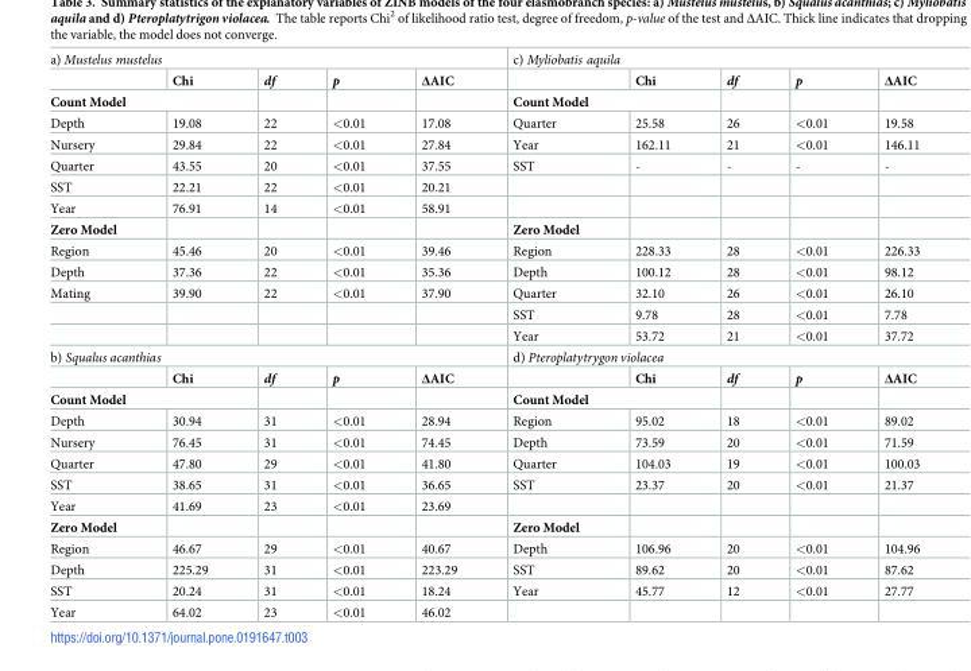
<table><tbody><tr><td colspan="5">a) Mustelus mustelus</td><td colspan="5">c) Myliobatis aquila</td></tr><tr><td></td><td>Chi</td><td>df</td><td>p</td><td>ΔAIC</td><td></td><td>Chi</td><td>df</td><td>p</td><td>ΔAIC</td></tr><tr><td colspan="2">Count Model</td><td></td><td></td><td></td><td colspan="2">Count Model</td><td></td><td></td><td></td></tr><tr><td>Depth</td><td>19.08</td><td>22</td><td>&lt;0.01</td><td>17.08</td><td>Quarter</td><td>25.58</td><td>26</td><td>&lt;0.01</td><td>19.58</td></tr><tr><td>Nursery</td><td>29.84</td><td>22</td><td>&lt;0.01</td><td>27.84</td><td>Year</td><td>162.11</td><td>21</td><td>&lt;0.01</td><td>146.11</td></tr><tr><td>Quarter</td><td>43.55</td><td>20</td><td>&lt;0.01</td><td>37.55</td><td>SST</td><td>-</td><td>-</td><td>-</td><td>-</td></tr><tr><td>SST</td><td>22.21</td><td>22</td><td>&lt;0.01</td><td>20.21</td><td></td><td></td><td></td><td></td><td></td></tr><tr><td>Year</td><td>76.91</td><td>14</td><td>&lt;0.01</td><td>58.91</td><td></td><td></td><td></td><td></td><td></td></tr><tr><td>Zero Model</td><td></td><td></td><td></td><td></td><td>Zero Model</td><td></td><td></td><td></td><td></td></tr><tr><td>Region</td><td>45.46</td><td>20</td><td>&lt;0.01</td><td>39.46</td><td>Region</td><td>228.33</td><td>28</td><td>&lt;0.01</td><td>226.33</td></tr><tr><td>Depth</td><td>37.36</td><td>22</td><td>&lt;0.01</td><td>35.36</td><td>Depth</td><td>100.12</td><td>28</td><td>&lt;0.01</td><td>98.12</td></tr><tr><td rowspan="3">Mating</td><td>39.90</td><td>22</td><td>&lt;0.01</td><td>37.90</td><td>Quarter</td><td>32.10</td><td>26</td><td>&lt;0.01</td><td>26.10</td></tr><tr><td></td><td></td><td></td><td></td><td>SST</td><td>9.78</td><td>28</td><td>&lt;0.01</td><td>7.78</td></tr><tr><td></td><td></td><td></td><td></td><td>Year</td><td>53.72</td><td>21</td><td>&lt;0.01</td><td>37.72</td></tr><tr><td colspan="5">b) Squalus acanthias</td><td colspan="5">d) Pteroplatytrygon violacea</td></tr><tr><td></td><td>Chi</td><td>df</td><td>p</td><td>ΔAIC</td><td></td><td>Chi</td><td>df</td><td>p</td><td>ΔAIC</td></tr><tr><td colspan="2">Count Model</td><td></td><td></td><td></td><td colspan="2">Count Model</td><td></td><td></td><td></td></tr><tr><td>Depth</td><td>30.94</td><td>31</td><td>&lt;0.01</td><td>28.94</td><td>Region</td><td>95.02</td><td>18</td><td>&lt;0.01</td><td>89.02</td></tr><tr><td>Nursery</td><td>76.45</td><td>31</td><td>&lt;0.01</td><td>74.45</td><td>Depth</td><td>73.59</td><td>20</td><td>&lt;0.01</td><td>71.59</td></tr><tr><td>Quarter</td><td>47.80</td><td>29</td><td>&lt;0.01</td><td>41.80</td><td>Quarter</td><td>104.03</td><td>19</td><td>&lt;0.01</td><td>100.03</td></tr><tr><td>SST</td><td>38.65</td><td>31</td><td>&lt;0.01</td><td>36.65</td><td>SST</td><td>23.37</td><td>20</td><td>&lt;0.01</td><td>21.37</td></tr><tr><td>Year</td><td>41.69</td><td>23</td><td>&lt;0.01</td><td>23.69</td><td></td><td></td><td></td><td></td><td></td></tr><tr><td>Zero Model</td><td></td><td></td><td></td><td></td><td>Zero Model</td><td></td><td></td><td></td><td></td></tr><tr><td>Region</td><td>46.67</td><td>29</td><td>&lt;0.01</td><td>40.67</td><td>Depth</td><td>106.96</td><td>20</td><td>&lt;0.01</td><td>104.96</td></tr><tr><td>Depth</td><td>225.29</td><td>31</td><td>&lt;0.01</td><td>223.29</td><td>SST</td><td>89.62</td><td>20</td><td>&lt;0.01</td><td>87.62</td></tr><tr><td>SST</td><td>20.24</td><td>31</td><td>&lt;0.01</td><td>18.24</td><td>Year</td><td>45.77</td><td>12</td><td>&lt;0.01</td><td>27.77</td></tr><tr><td>Year</td><td>64.02</td><td>23</td><td>&lt;0.01</td><td>46.02</td><td></td><td></td><td></td><td></td><td></td></tr></tbody></table>